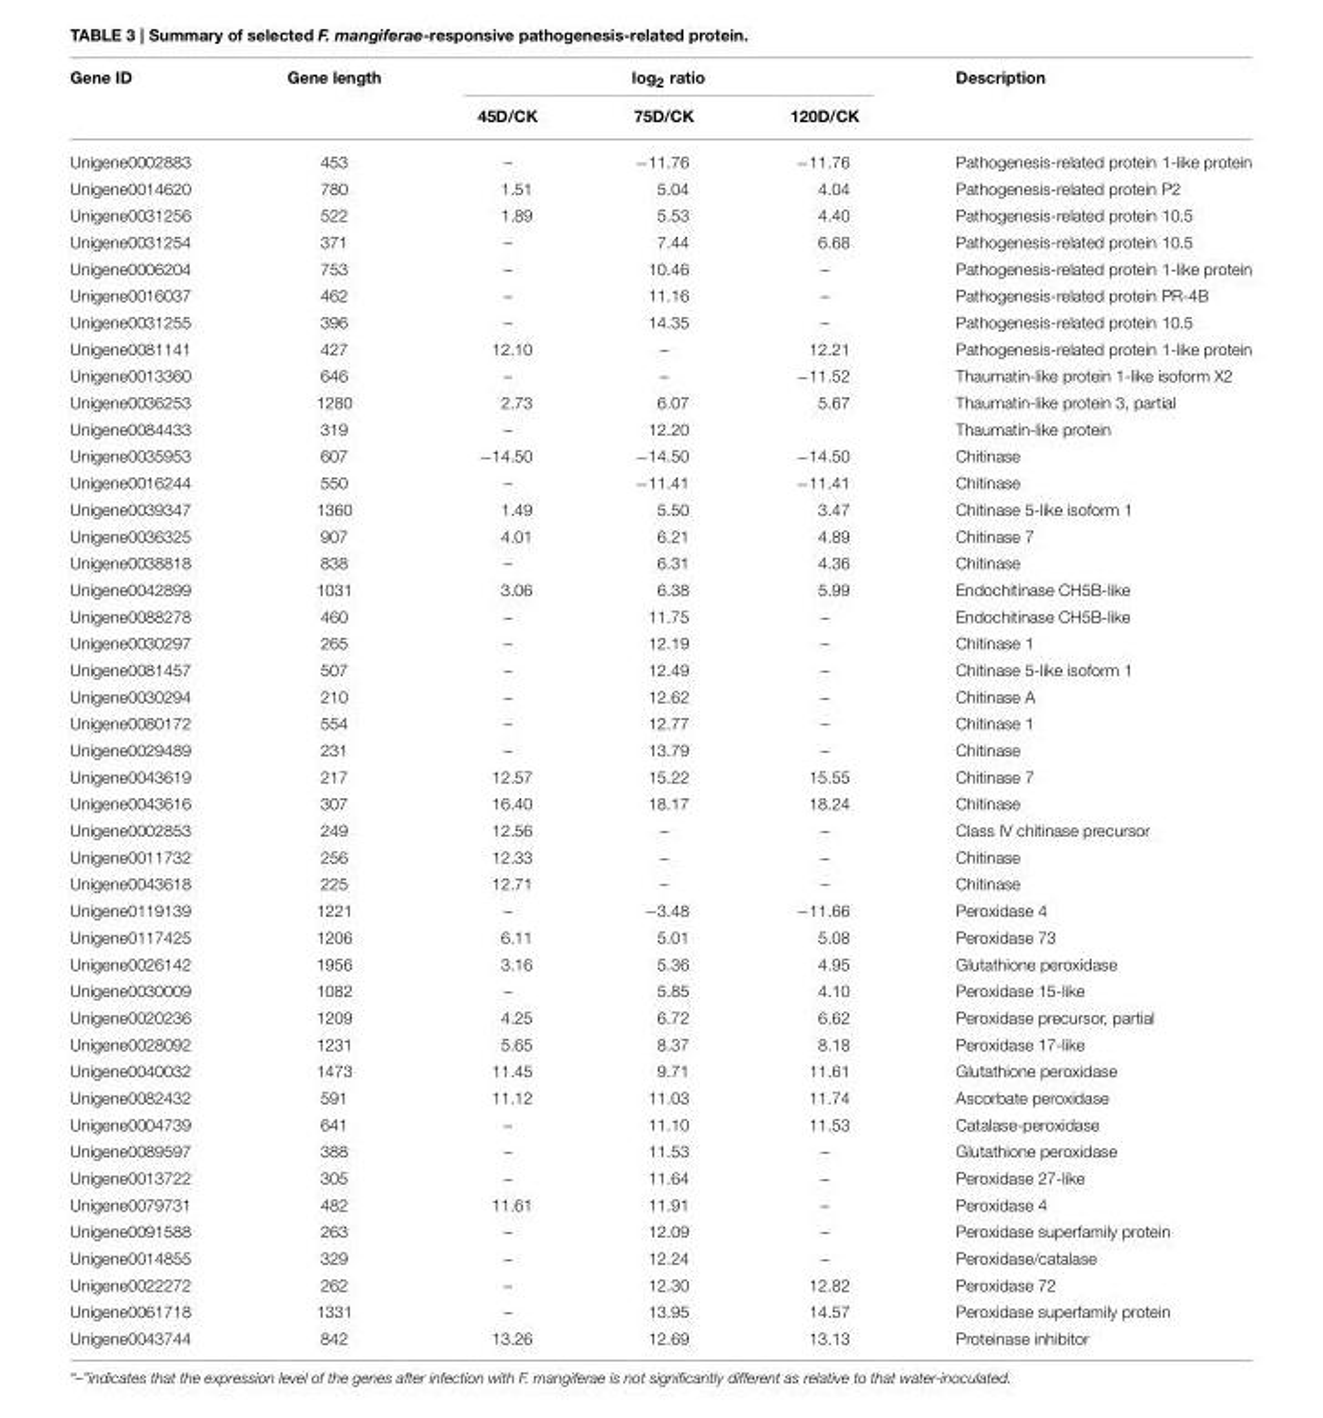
<table><thead><tr><td rowspan="2">Gene ID</td><td rowspan="2">Gene length</td><td colspan="3">log<sub>2</sub> ratio</td><td rowspan="2">Description</td></tr><tr><td>45D/CK</td><td>75D/CK</td><td>120D/CK</td></tr></thead><tbody><tr><td>Unigene0002883</td><td>453</td><td>–</td><td>−11.76</td><td>−11.76</td><td>Pathogenesis-related protein 1-like protein</td></tr><tr><td>Unigene0014620</td><td>780</td><td>1.51</td><td>5.04</td><td>4.04</td><td>Pathogenesis-related protein P2</td></tr><tr><td>Unigene0031256</td><td>522</td><td>1.89</td><td>5.53</td><td>4.40</td><td>Pathogenesis-related protein 10.5</td></tr><tr><td>Unigene0031254</td><td>371</td><td>–</td><td>7.44</td><td>6.68</td><td>Pathogenesis-related protein 10.5</td></tr><tr><td>Unigene0006204</td><td>753</td><td>–</td><td>10.46</td><td>–</td><td>Pathogenesis-related protein 1-like protein</td></tr><tr><td>Unigene0016037</td><td>462</td><td>–</td><td>11.16</td><td>–</td><td>Pathogenesis-related protein PR-4B</td></tr><tr><td>Unigene0031255</td><td>396</td><td>–</td><td>14.35</td><td>–</td><td>Pathogenesis-related protein 10.5</td></tr><tr><td>Unigene0081141</td><td>427</td><td>12.10</td><td>–</td><td>12.21</td><td>Pathogenesis-related protein 1-like protein</td></tr><tr><td>Unigene0013360</td><td>646</td><td>–</td><td>–</td><td>−11.52</td><td>Thaumatin-like protein 1-like isoform X2</td></tr><tr><td>Unigene0036253</td><td>1280</td><td>2.73</td><td>6.07</td><td>5.67</td><td>Thaumatin-like protein 3, partial</td></tr><tr><td>Unigene0084433</td><td>319</td><td>–</td><td>12.20</td><td></td><td>Thaumatin-like protein</td></tr><tr><td>Unigene0035953</td><td>607</td><td>−14.50</td><td>−14.50</td><td>−14.50</td><td>Chitinase</td></tr><tr><td>Unigene0016244</td><td>550</td><td>–</td><td>−11.41</td><td>−11.41</td><td>Chitinase</td></tr><tr><td>Unigene0039347</td><td>1360</td><td>1.49</td><td>5.50</td><td>3.47</td><td>Chitinase 5-like isoform 1</td></tr><tr><td>Unigene0036325</td><td>907</td><td>4.01</td><td>6.21</td><td>4.89</td><td>Chitinase 7</td></tr><tr><td>Unigene0038818</td><td>838</td><td>–</td><td>6.31</td><td>4.36</td><td>Chitinase</td></tr><tr><td>Unigene0042899</td><td>1031</td><td>3.06</td><td>6.38</td><td>5.99</td><td>Endochitinase CH5B-like</td></tr><tr><td>Unigene0088278</td><td>460</td><td>–</td><td>11.75</td><td>–</td><td>Endochitinase CH5B-like</td></tr><tr><td>Unigene0030297</td><td>265</td><td>–</td><td>12.19</td><td>–</td><td>Chitinase 1</td></tr><tr><td>Unigene0081457</td><td>507</td><td>–</td><td>12.49</td><td>–</td><td>Chitinase 5-like isoform 1</td></tr><tr><td>Unigene0030294</td><td>210</td><td>–</td><td>12.62</td><td>–</td><td>Chitinase A</td></tr><tr><td>Unigene0080172</td><td>554</td><td>–</td><td>12.77</td><td>–</td><td>Chitinase 1</td></tr><tr><td>Unigene0029489</td><td>231</td><td>–</td><td>13.79</td><td>–</td><td>Chitinase</td></tr><tr><td>Unigene0043619</td><td>217</td><td>12.57</td><td>15.22</td><td>15.55</td><td>Chitinase 7</td></tr><tr><td>Unigene0043616</td><td>307</td><td>16.40</td><td>18.17</td><td>18.24</td><td>Chitinase</td></tr><tr><td>Unigene0002853</td><td>249</td><td>12.56</td><td>–</td><td>–</td><td>Class IV chitinase precursor</td></tr><tr><td>Unigene0011732</td><td>256</td><td>12.33</td><td>–</td><td>–</td><td>Chitinase</td></tr><tr><td>Unigene0043618</td><td>225</td><td>12.71</td><td>–</td><td>–</td><td>Chitinase</td></tr><tr><td>Unigene0119139</td><td>1221</td><td>–</td><td>−3.48</td><td>−11.66</td><td>Peroxidase 4</td></tr><tr><td>Unigene0117425</td><td>1206</td><td>6.11</td><td>5.01</td><td>5.08</td><td>Peroxidase 73</td></tr><tr><td>Unigene0026142</td><td>1956</td><td>3.16</td><td>5.36</td><td>4.95</td><td>Glutathione peroxidase</td></tr><tr><td>Unigene0030009</td><td>1082</td><td>–</td><td>5.85</td><td>4.10</td><td>Peroxidase 15-like</td></tr><tr><td>Unigene0020236</td><td>1209</td><td>4.25</td><td>6.72</td><td>6.62</td><td>Peroxidase precursor, partial</td></tr><tr><td>Unigene0028092</td><td>1231</td><td>5.65</td><td>8.37</td><td>8.18</td><td>Peroxidase 17-like</td></tr><tr><td>Unigene0040032</td><td>1473</td><td>11.45</td><td>9.71</td><td>11.61</td><td>Glutathione peroxidase</td></tr><tr><td>Unigene0082432</td><td>591</td><td>11.12</td><td>11.03</td><td>11.74</td><td>Ascorbate peroxidase</td></tr><tr><td>Unigene0004739</td><td>641</td><td>–</td><td>11.10</td><td>11.53</td><td>Catalase-peroxidase</td></tr><tr><td>Unigene0089597</td><td>388</td><td>–</td><td>11.53</td><td>–</td><td>Glutathione peroxidase</td></tr><tr><td>Unigene0013722</td><td>305</td><td>–</td><td>11.64</td><td>–</td><td>Peroxidase 27-like</td></tr><tr><td>Unigene0079731</td><td>482</td><td>11.61</td><td>11.91</td><td>–</td><td>Peroxidase 4</td></tr><tr><td>Unigene0091588</td><td>263</td><td>–</td><td>12.09</td><td>–</td><td>Peroxidase superfamily protein</td></tr><tr><td>Unigene0014855</td><td>329</td><td>–</td><td>12.24</td><td>–</td><td>Peroxidase/catalase</td></tr><tr><td>Unigene0022272</td><td>262</td><td>–</td><td>12.30</td><td>12.82</td><td>Peroxidase 72</td></tr><tr><td>Unigene0061718</td><td>1331</td><td>–</td><td>13.95</td><td>14.57</td><td>Peroxidase superfamily protein</td></tr><tr><td>Unigene0043744</td><td>842</td><td>13.26</td><td>12.69</td><td>13.13</td><td>Proteinase inhibitor</td></tr></tbody></table>